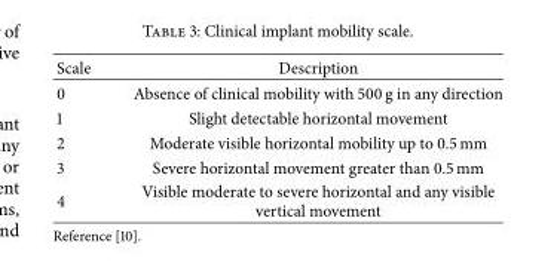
<table><thead><tr><td>Scale</td><td>Description</td></tr></thead><tbody><tr><td>0</td><td>Absence of clinical mobility with 500 g in any direction</td></tr><tr><td>1</td><td>Slight detectable horizontal movement</td></tr><tr><td>2</td><td>Moderate visible horizontal mobility up to 0.5 mm</td></tr><tr><td>3</td><td>Severe horizontal movement greater than 0.5 mm</td></tr><tr><td>4</td><td>Visible moderate to severe horizontal and any visible vertical movement</td></tr></tbody></table>